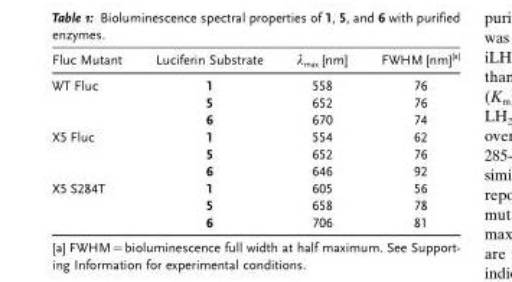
<table><thead><tr><td>Fluc Mutant</td><td>Luciferin Substrate</td><td>λ<sub>max</sub> [nm]</td><td>FWHM [nm][a]</td></tr></thead><tbody><tr><td rowspan="3">WT Fluc</td><td>1</td><td>558</td><td>76</td></tr><tr><td>5</td><td>652</td><td>76</td></tr><tr><td>6</td><td>670</td><td>74</td></tr><tr><td rowspan="3">X5 Fluc</td><td>1</td><td>554</td><td>62</td></tr><tr><td>5</td><td>652</td><td>76</td></tr><tr><td>6</td><td>646</td><td>92</td></tr><tr><td rowspan="3">X5 S284T</td><td>1</td><td>605</td><td>56</td></tr><tr><td>5</td><td>658</td><td>78</td></tr><tr><td>6</td><td>706</td><td>81</td></tr></tbody></table>